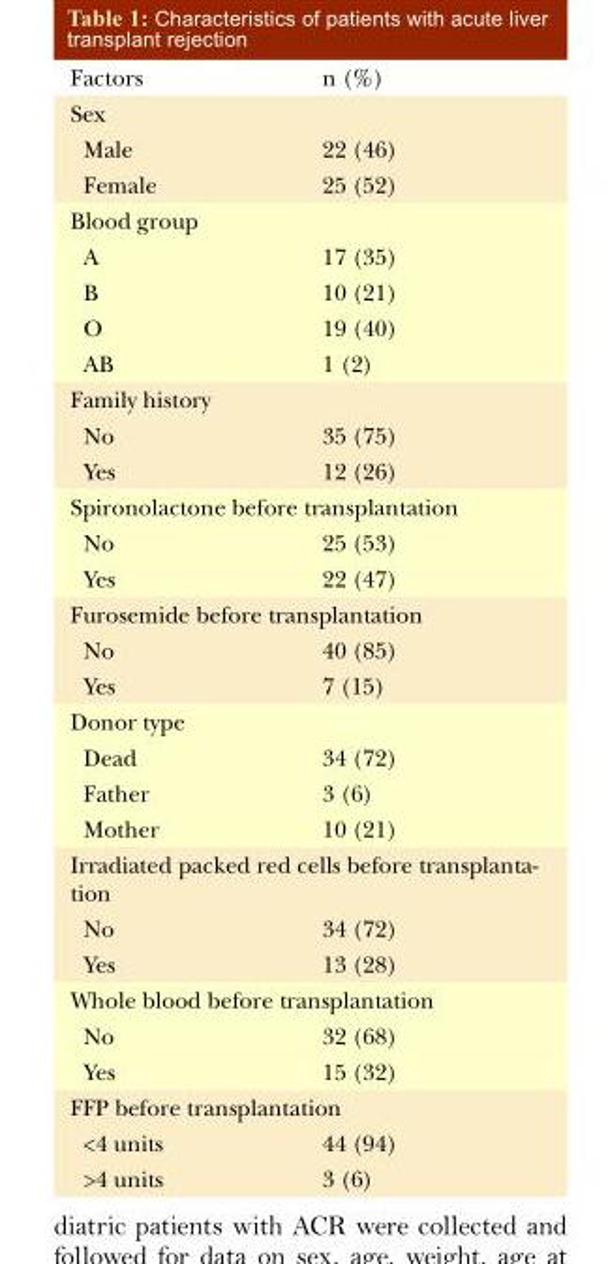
<table><thead><tr><td>Factors</td><td>n (%)</td></tr></thead><tbody><tr><td colspan="2">Sex</td></tr><tr><td>Male</td><td>22 (46)</td></tr><tr><td>Female</td><td>25 (52)</td></tr><tr><td colspan="2">Blood group</td></tr><tr><td>A</td><td>17 (35)</td></tr><tr><td>B</td><td>10 (21)</td></tr><tr><td>O</td><td>19 (40)</td></tr><tr><td>AB</td><td>1 (2)</td></tr><tr><td colspan="2">Family history</td></tr><tr><td>No</td><td>35 (75)</td></tr><tr><td>Yes</td><td>12 (26)</td></tr><tr><td colspan="2">Spironolactone before transplantation</td></tr><tr><td>No</td><td>25 (53)</td></tr><tr><td>Yes</td><td>22 (47)</td></tr><tr><td colspan="2">Furosemide before transplantation</td></tr><tr><td>No</td><td>40 (85)</td></tr><tr><td>Yes</td><td>7 (15)</td></tr><tr><td colspan="2">Donor type</td></tr><tr><td>Dead</td><td>34 (72)</td></tr><tr><td>Father</td><td>3 (6)</td></tr><tr><td>Mother</td><td>10 (21)</td></tr><tr><td colspan="2">Irradiated packed red cells before transplanta- tion</td></tr><tr><td>No</td><td>34 (72)</td></tr><tr><td>Yes</td><td>13 (28)</td></tr><tr><td colspan="2">Whole blood before transplantation</td></tr><tr><td>No</td><td>32 (68)</td></tr><tr><td>Yes</td><td>15 (32)</td></tr><tr><td colspan="2">FFP before transplantation</td></tr><tr><td>&lt;4 units</td><td>44 (94)</td></tr><tr><td>&gt;4 units</td><td>3 (6)</td></tr></tbody></table>